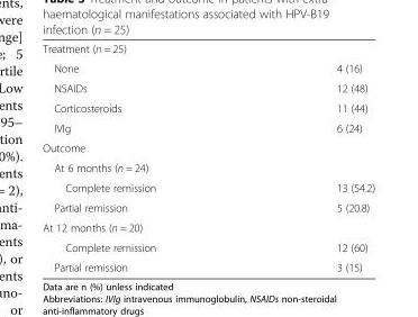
<table><tbody><tr><td colspan="2">Treatment (n = 25)</td></tr><tr><td>None</td><td>4 (16)</td></tr><tr><td>NSAIDs</td><td>12 (48)</td></tr><tr><td>Corticosteroids</td><td>11 (44)</td></tr><tr><td>IVIg</td><td>6 (24)</td></tr><tr><td colspan="2">Outcome</td></tr><tr><td colspan="2">At 6 months (n = 24)</td></tr><tr><td>Complete remission</td><td>13 (54.2)</td></tr><tr><td>Partial remission</td><td>5 (20.8)</td></tr><tr><td colspan="2">At 12 months (n = 20)</td></tr><tr><td>Complete remission</td><td>12 (60)</td></tr><tr><td>Partial remission</td><td>3 (15)</td></tr></tbody></table>